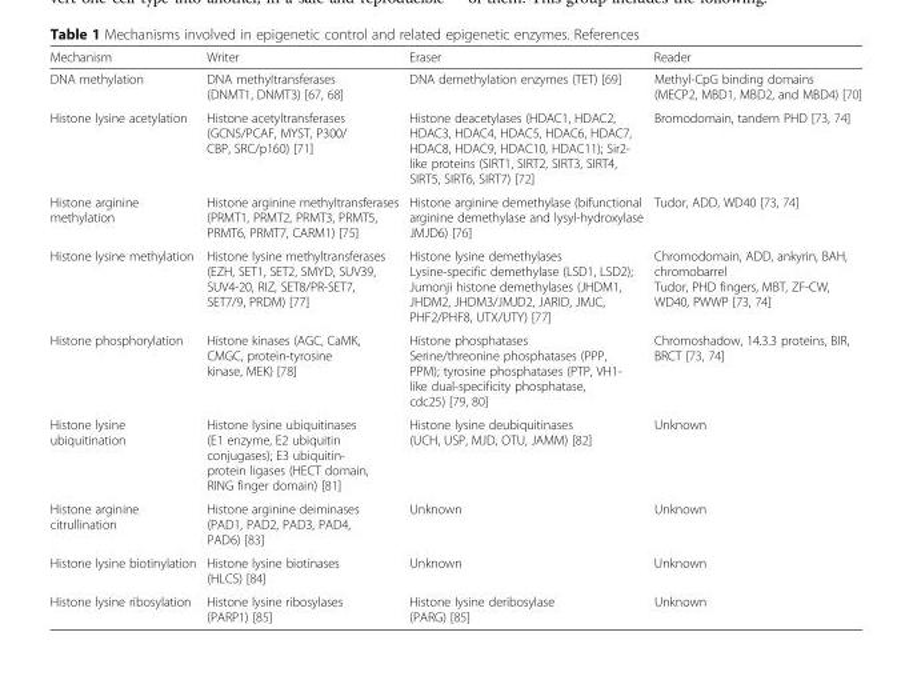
<table><thead><tr><td>Mechanism</td><td>Writer</td><td>Eraser</td><td>Reader</td></tr></thead><tbody><tr><td>DNA methylation</td><td>DNA methyltransferases (DNMT1, DNMT3) [67, 68]</td><td>DNA demethylation enzymes (TET) [69]</td><td>Methyl-CpG binding domains (MECP2, MBD1, MBD2, and MBD4) [70]</td></tr><tr><td>Histone lysine acetylation</td><td>Histone acetyltransferases (GCN5/PCAF, MYST, P300/ CBP, SRC/p160) [71]</td><td>Histone deacetylases (HDAC1, HDAC2, HDAC3, HDAC4, HDAC5, HDAC6, HDAC7, HDAC8, HDAC9, HDAC10, HDAC11); Sir2- like proteins (SIRT1, SIRT2, SIRT3, SIRT4, SIRT5, SIRT6, SIRT7) [72]</td><td>Bromodomain, tandem PHD [73, 74]</td></tr><tr><td>Histone arginine methylation</td><td>Histone arginine methyltransferases (PRMT1, PRMT2, PRMT3, PRMT5, PRMT6, PRMT7, CARM1) [75]</td><td>Histone arginine demethylase (bifunctional arginine demethylase and lysyl-hydroxylase JMJD6) [76]</td><td>Tudor, ADD, WD40 [73, 74]</td></tr><tr><td>Histone lysine methylation</td><td>Histone lysine methyltransferases (EZH, SET1, SET2, SMYD, SUV39, SUV4-20, RIZ, SET8/PR-SET7, SET7/9, PRDM) [77]</td><td>Histone lysine demethylases Lysine-specific demethylase (LSD1, LSD2); Jumonji histone demethylases (JHDM1, JHDM2, JHDM3/JMJD2, JARID, JMJC, PHF2/PHF8, UTX/UTY) [77]</td><td>Chromodomain, ADD, ankyrin, BAH, chromobarrel Tudor, PHD fingers, MBT, ZF-CW, WD40, PWWP [73, 74]</td></tr><tr><td>Histone phosphorylation</td><td>Histone kinases (AGC, CaMK, CMGC, protein-tyrosine kinase, MEK) [78]</td><td>Histone phosphatases Serine/threonine phosphatases (PPP, PPM); tyrosine phosphatases (PTP, VH1- like dual-specificity phosphatase, cdc25) [79, 80]</td><td>Chromoshadow, 14.3.3 proteins, BIR, BRCT [73, 74]</td></tr><tr><td>Histone lysine ubiquitination</td><td>Histone lysine ubiquitinases (E1 enzyme, E2 ubiquitin conjugases); E3 ubiquitin- protein ligases (HECT domain, RING finger domain) [81]</td><td>Histone lysine deubiquitinases (UCH, USP, MJD, OTU, JAMM) [82]</td><td>Unknown</td></tr><tr><td>Histone arginine citrullination</td><td>Histone arginine deiminases (PAD1, PAD2, PAD3, PAD4, PAD6) [83]</td><td>Unknown</td><td>Unknown</td></tr><tr><td>Histone lysine biotinylation</td><td>Histone lysine biotinases (HLCS) [84]</td><td>Unknown</td><td>Unknown</td></tr><tr><td>Histone lysine ribosylation</td><td>Histone lysine ribosylases (PARP1) [85]</td><td>Histone lysine deribosylase (PARG) [85]</td><td>Unknown</td></tr></tbody></table>